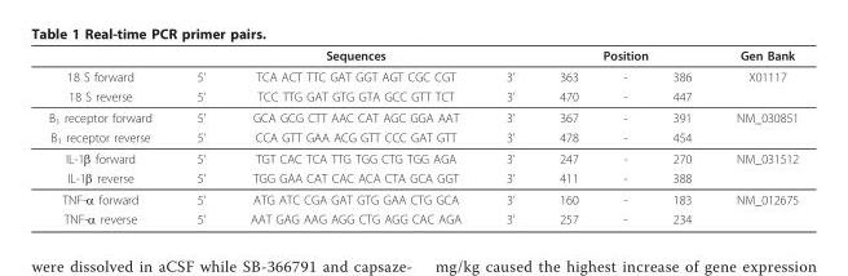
<table><thead><tr><td rowspan="2">18 S forward</td><td colspan="3">Sequences</td><td colspan="3">Position</td><td rowspan="2">Gen Bank X01117</td></tr><tr><td>5’</td><td>TCA ACT TTC GAT GGT AGT CGC CGT</td><td>3’</td><td>363</td><td>-</td><td>386</td></tr></thead><tbody><tr><td>18 S reverse</td><td>5’</td><td>TCC TTG GAT GTG GTA GCC GTT TCT</td><td>3’</td><td>470</td><td>-</td><td>447</td><td></td></tr><tr><td>B<sub>1</sub> receptor forward</td><td>5’</td><td>GCA GCG CTT AAC CAT AGC GGA AAT</td><td>3’</td><td>367</td><td>-</td><td>391</td><td>NM_030851</td></tr><tr><td>B<sub>1</sub> receptor reverse</td><td>5’</td><td>CCA GTT GAA ACG GTT CCC GAT GTT</td><td>3’</td><td>478</td><td>-</td><td>454</td><td></td></tr><tr><td>IL-1β forward</td><td>5’</td><td>TGT CAC TCA TTG TGG CTG TGG AGA</td><td>3’</td><td>247</td><td>-</td><td>270</td><td>NM_031512</td></tr><tr><td>IL-1β reverse</td><td>5’</td><td>TGG GAA CAT CAC ACA CTA GCA GGT</td><td>3’</td><td>411</td><td>-</td><td>388</td><td></td></tr><tr><td>TNF-α forward</td><td>5’</td><td>ATG ATC CGA GAT GTG GAA CTG GCA</td><td>3’</td><td>160</td><td>-</td><td>183</td><td>NM_012675</td></tr><tr><td>TNF-α reverse</td><td>5’</td><td>AAT GAG AAG AGG CTG AGG CAC AGA</td><td>3’</td><td>257</td><td>-</td><td>234</td><td></td></tr></tbody></table>